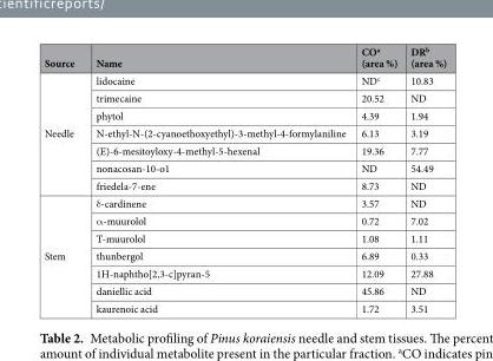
<table><thead><tr><td>Source</td><td>Name</td><td>CO<sup>a</sup> (area %)</td><td>DR<sup>b</sup> (area %)</td></tr></thead><tbody><tr><td rowspan="7">Needle</td><td>lidocaine</td><td>ND<sup>c</sup></td><td>10.83</td></tr><tr><td>trimecaine</td><td>20.52</td><td>ND</td></tr><tr><td>phytol</td><td>4.39</td><td>1.94</td></tr><tr><td>N-ethyl-N-(2-cyanoethoxyethyl)-3-methyl-4-formylaniline</td><td>6.13</td><td>3.19</td></tr><tr><td>(E)-6-mesitoyloxy-4-methyl-5-hexenal</td><td>19.36</td><td>7.77</td></tr><tr><td>nonacosan-10-o1</td><td>ND</td><td>54.49</td></tr><tr><td>friedela-7-ene</td><td>8.73</td><td>ND</td></tr><tr><td rowspan="7">Stem</td><td>δ-cardinene</td><td>3.57</td><td>ND</td></tr><tr><td>α-muurolol</td><td>0.72</td><td>7.02</td></tr><tr><td>T-muurolol</td><td>1.08</td><td>1.11</td></tr><tr><td>thunbergol</td><td>6.89</td><td>0.33</td></tr><tr><td>1H-naphtho[2,3-c]pyran-5</td><td>12.09</td><td>27.88</td></tr><tr><td>daniellic acid</td><td>45.86</td><td>ND</td></tr><tr><td>kaurenoic acid</td><td>1.72</td><td>3.51</td></tr></tbody></table>